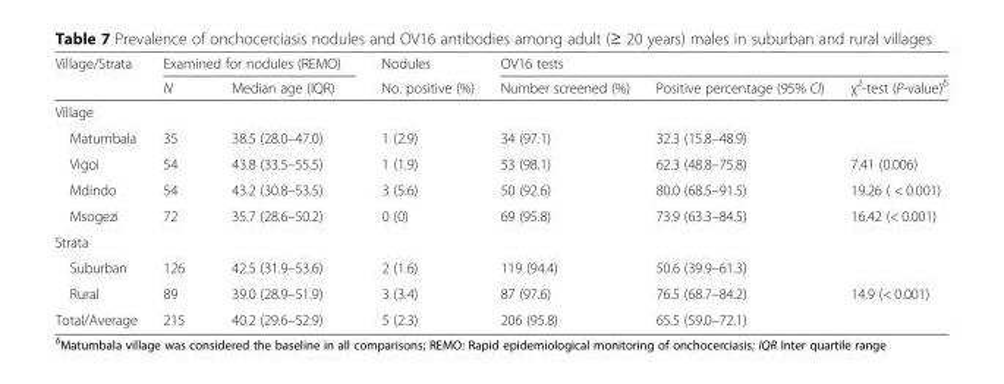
<table><thead><tr><td rowspan="2">Village/Strata</td><td colspan="2">Examined for nodules (REMO)</td><td rowspan="2">Nodules No. positive (%)</td><td colspan="3">OV16 tests</td></tr><tr><td>N</td><td>Median age (IQR)</td><td>Number screened (%)</td><td>Positive percentage (95% CI)</td><td>χ<sup>2</sup>-test (P-value)<sup>δ</sup></td></tr></thead><tbody><tr><td colspan="7">Village</td></tr><tr><td>Matumbala</td><td>35</td><td>38.5 (28.0–47.0)</td><td>1 (2.9)</td><td>34 (97.1)</td><td>32.3 (15.8–48.9)</td><td></td></tr><tr><td>Vigoi</td><td>54</td><td>43.8 (33.5–55.5)</td><td>1 (1.9)</td><td>53 (98.1)</td><td>62.3 (48.8–75.8)</td><td>7.41 (0.006)</td></tr><tr><td>Mdindo</td><td>54</td><td>43.2 (30.8–53.5)</td><td>3 (5.6)</td><td>50 (92.6)</td><td>80.0 (68.5–91.5)</td><td>19.26 ( &lt; 0.001)</td></tr><tr><td>Msogezi</td><td>72</td><td>35.7 (28.6–50.2)</td><td>0 (0)</td><td>69 (95.8)</td><td>73.9 (63.3–84.5)</td><td>16.42 (&lt; 0.001)</td></tr><tr><td colspan="7">Strata</td></tr><tr><td>Suburban</td><td>126</td><td>42.5 (31.9–53.6)</td><td>2 (1.6)</td><td>119 (94.4)</td><td>50.6 (39.9–61.3)</td><td></td></tr><tr><td>Rural</td><td>89</td><td>39.0 (28.9–51.9)</td><td>3 (3.4)</td><td>87 (97.6)</td><td>76.5 (68.7–84.2)</td><td>14.9 (&lt; 0.001)</td></tr><tr><td>Total/Average</td><td>215</td><td>40.2 (29.6–52.9)</td><td>5 (2.3)</td><td>206 (95.8)</td><td>65.5 (59.0–72.1)</td><td></td></tr></tbody></table>